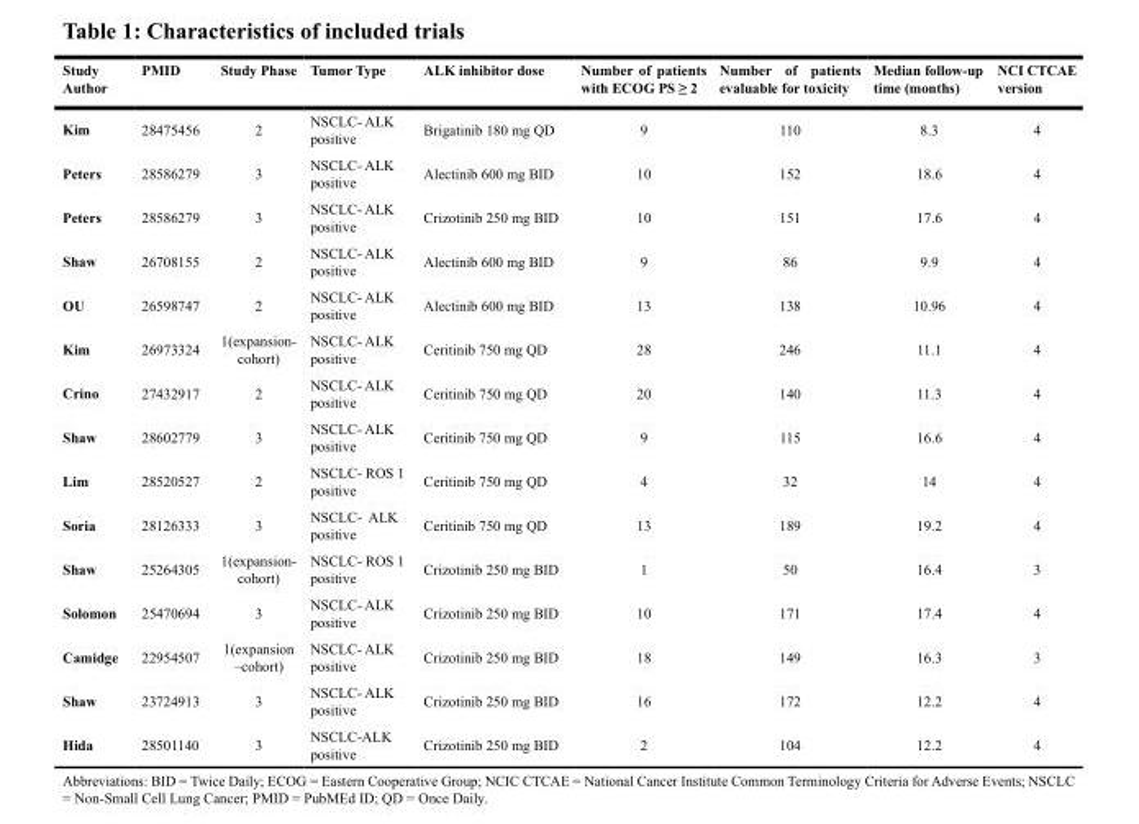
<table><thead><tr><td>Study Author</td><td>PMID</td><td>Study Phase</td><td>Tumor Type</td><td>ALK inhibitor dose</td><td>Number of patients with ECOG PS ≥ 2</td><td>Number of patients evaluable for toxicity</td><td>Median follow-up time (months)</td><td>NCI CTCAE version</td></tr></thead><tbody><tr><td>Kim</td><td>28475456</td><td>2</td><td>NSCLC- ALK positive</td><td>Brigatinib 180 mg QD</td><td>9</td><td>110</td><td>8.3</td><td>4</td></tr><tr><td>Peters</td><td>28586279</td><td>3</td><td>NSCLC- ALK positive</td><td>Alectinib 600 mg BID</td><td>10</td><td>152</td><td>18.6</td><td>4</td></tr><tr><td>Peters</td><td>28586279</td><td>3</td><td>NSCLC- ALK positive</td><td>Crizotinib 250 mg BID</td><td>10</td><td>151</td><td>17.6</td><td>4</td></tr><tr><td>Shaw</td><td>26708155</td><td>2</td><td>NSCLC- ALK positive</td><td>Alectinib 600 mg BID</td><td>9</td><td>86</td><td>9.9</td><td>4</td></tr><tr><td>OU</td><td>26598747</td><td>2</td><td>NSCLC- ALK positive</td><td>Alectinib 600 mg BID</td><td>13</td><td>138</td><td>10.96</td><td>4</td></tr><tr><td>Kim</td><td>26973324</td><td>1(expansion- cohort)</td><td>NSCLC- ALK positive</td><td>Ceritinib 750 mg QD</td><td>28</td><td>246</td><td>11.1</td><td>4</td></tr><tr><td>Crino</td><td>27432917</td><td>2</td><td>NSCLC- ALK positive</td><td>Ceritinib 750 mg QD</td><td>20</td><td>140</td><td>11.3</td><td>4</td></tr><tr><td>Shaw</td><td>28602779</td><td>3</td><td>NSCLC- ALK positive</td><td>Ceritinib 750 mg QD</td><td>9</td><td>115</td><td>16.6</td><td>4</td></tr><tr><td>Lim</td><td>28520527</td><td>2</td><td>NSCLC- ROS 1 positive</td><td>Ceritinib 750 mg QD</td><td>4</td><td>32</td><td>14</td><td>4</td></tr><tr><td>Soria</td><td>28126333</td><td>3</td><td>NSCLC- ALK positive</td><td>Ceritinib 750 mg QD</td><td>13</td><td>189</td><td>19.2</td><td>4</td></tr><tr><td>Shaw</td><td>25264305</td><td>1(expansion- cohort)</td><td>NSCLC- ROS 1 positive</td><td>Crizotinib 250 mg BID</td><td>1</td><td>50</td><td>16.4</td><td>3</td></tr><tr><td>Solomon</td><td>25470694</td><td>3</td><td>NSCLC- ALK positive</td><td>Crizotinib 250 mg BID</td><td>10</td><td>171</td><td>17.4</td><td>4</td></tr><tr><td>Camidge</td><td>22954507</td><td>1(expansion –cohort)</td><td>NSCLC- ALK positive</td><td>Crizotinib 250 mg BID</td><td>18</td><td>149</td><td>16.3</td><td>3</td></tr><tr><td>Shaw</td><td>23724913</td><td>3</td><td>NSCLC- ALK positive</td><td>Crizotinib 250 mg BID</td><td>16</td><td>172</td><td>12.2</td><td>4</td></tr><tr><td>Hida</td><td>28501140</td><td>3</td><td>NSCLC-ALK positive</td><td>Crizotinib 250 mg BID</td><td>2</td><td>104</td><td>12.2</td><td>4</td></tr></tbody></table>